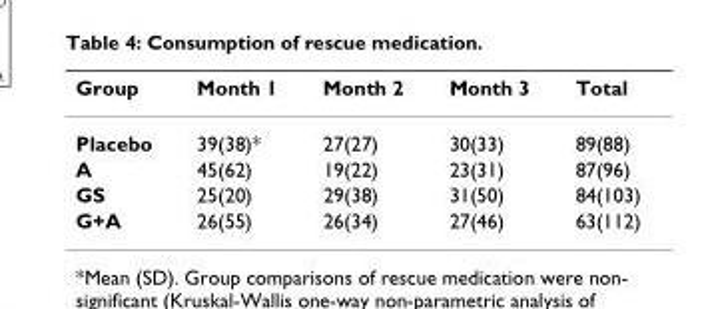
<table><thead><tr><td>Group</td><td>Month 1</td><td>Month 2</td><td>Month 3</td><td>Total</td></tr></thead><tbody><tr><td>Placebo</td><td>39(38)*</td><td>27(27)</td><td>30(33)</td><td>89(88)</td></tr><tr><td>A</td><td>45(62)</td><td>19(22)</td><td>23(31)</td><td>87(96)</td></tr><tr><td>GS</td><td>25(20)</td><td>29(38)</td><td>31(50)</td><td>84(103)</td></tr><tr><td>G+A</td><td>26(55)</td><td>26(34)</td><td>27(46)</td><td>63(112)</td></tr></tbody></table>